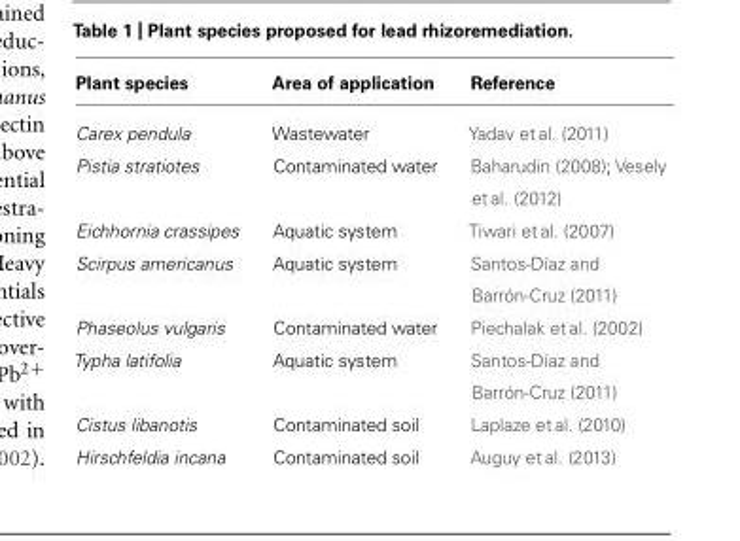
<table><thead><tr><td>Plant species</td><td>Area of application</td><td>Reference</td></tr></thead><tbody><tr><td>Carex pendula</td><td>Wastewater</td><td>Yadav et al. (2011)</td></tr><tr><td>Pistia stratiotes</td><td>Contaminated water</td><td>Baharudin (2008); Vesely et al. (2012)</td></tr><tr><td>Eichhornia crassipes</td><td>Aquatic system</td><td>Tiwari et al. (2007)</td></tr><tr><td>Scirpus americanus</td><td>Aquatic system</td><td>Santos-Díaz and Barrón-Cruz (2011)</td></tr><tr><td>Phaseolus vulgaris</td><td>Contaminated water</td><td>Piechalak et al. (2002)</td></tr><tr><td>Typha latifolia</td><td>Aquatic system</td><td>Santos-Díaz and Barrón-Cruz (2011)</td></tr><tr><td>Cistus libanotis</td><td>Contaminated soil</td><td>Laplaze et al. (2010)</td></tr><tr><td>Hirschfeldia incana</td><td>Contaminated soil</td><td>Auguy et al. (2013)</td></tr></tbody></table>